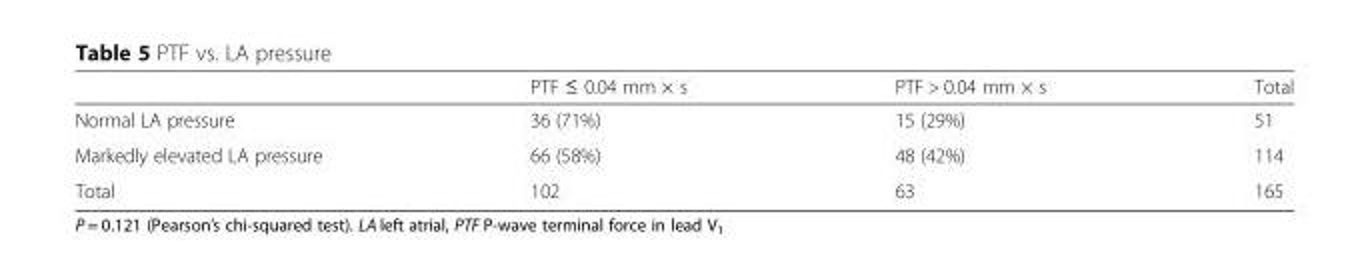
<table><thead><tr><td></td><td>PTF ≤ 0.04 mm × s</td><td>PTF &gt; 0.04 mm × s</td><td>Total</td></tr></thead><tbody><tr><td>Normal LA pressure</td><td>36 (71%)</td><td>15 (29%)</td><td>51</td></tr><tr><td>Markedly elevated LA pressure</td><td>66 (58%)</td><td>48 (42%)</td><td>114</td></tr><tr><td>Total</td><td>102</td><td>63</td><td>165</td></tr></tbody></table>